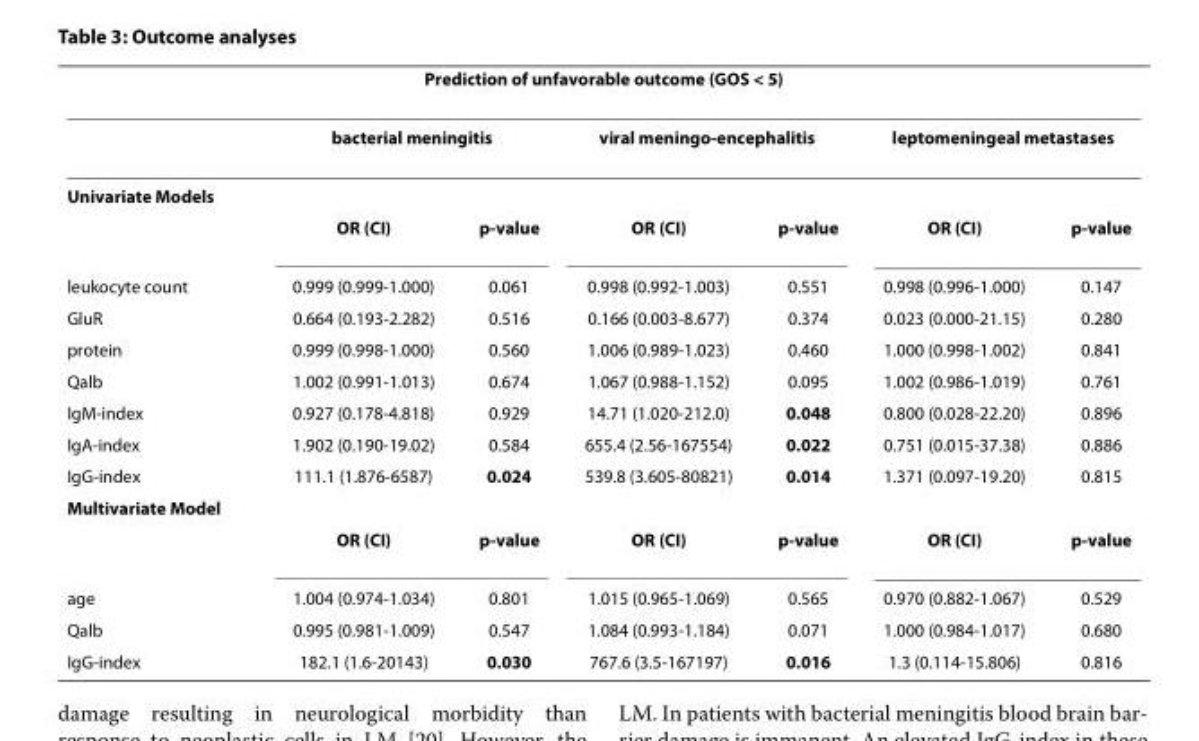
<table><thead><tr><td colspan="7">Prediction of unfavorable outcome (GOS &lt; 5)</td></tr><tr><td rowspan="2">Univariate Models</td><td colspan="2">bacterial meningitis</td><td colspan="2">viral meningo-encephalitis</td><td colspan="2">leptomeningeal metastases</td></tr><tr><td></td><td></td><td></td><td></td><td></td><td></td></tr></thead><tbody><tr><td></td><td>OR (CI)</td><td>p-value</td><td>OR (CI)</td><td>p-value</td><td>OR (CI)</td><td>p-value</td></tr><tr><td>leukocyte count</td><td>0.999 (0.999-1.000)</td><td>0.061</td><td>0.998 (0.992-1.003)</td><td>0.551</td><td>0.998 (0.996-1.000)</td><td>0.147</td></tr><tr><td>GluR</td><td>0.664 (0.193-2.282)</td><td>0.516</td><td>0.166 (0.003-8.677)</td><td>0.374</td><td>0.023 (0.000-21.15)</td><td>0.280</td></tr><tr><td>protein</td><td>0.999 (0.998-1.000)</td><td>0.560</td><td>1.006 (0.989-1.023)</td><td>0.460</td><td>1.000 (0.998-1.002)</td><td>0.841</td></tr><tr><td>Qalb</td><td>1.002 (0.991-1.013)</td><td>0.674</td><td>1.067 (0.988-1.152)</td><td>0.095</td><td>1.002 (0.986-1.019)</td><td>0.761</td></tr><tr><td>IgM-index</td><td>0.927 (0.178-4.818)</td><td>0.929</td><td>14.71 (1.020-212.0)</td><td>0.048</td><td>0.800 (0.028-22.20)</td><td>0.896</td></tr><tr><td>IgA-index</td><td>1.902 (0.190-19.02)</td><td>0.584</td><td>655.4 (2.56-167554)</td><td>0.022</td><td>0.751 (0.015-37.38)</td><td>0.886</td></tr><tr><td>IgG-index</td><td>111.1 (1.876-6587)</td><td>0.024</td><td>539.8 (3.605-80821)</td><td>0.014</td><td>1.371 (0.097-19.20)</td><td>0.815</td></tr><tr><td colspan="7">Multivariate Model</td></tr><tr><td></td><td>OR (CI)</td><td>p-value</td><td>OR (CI)</td><td>p-value</td><td>OR (CI)</td><td>p-value</td></tr><tr><td>age</td><td>1.004 (0.974-1.034)</td><td>0.801</td><td>1.015 (0.965-1.069)</td><td>0.565</td><td>0.970 (0.882-1.067)</td><td>0.529</td></tr><tr><td>Qalb</td><td>0.995 (0.981-1.009)</td><td>0.547</td><td>1.084 (0.993-1.184)</td><td>0.071</td><td>1.000 (0.984-1.017)</td><td>0.680</td></tr><tr><td>IgG-index</td><td>182.1 (1.6-20143)</td><td>0.030</td><td>767.6 (3.5-167197)</td><td>0.016</td><td>1.3 (0.114-15.806)</td><td>0.816</td></tr></tbody></table>